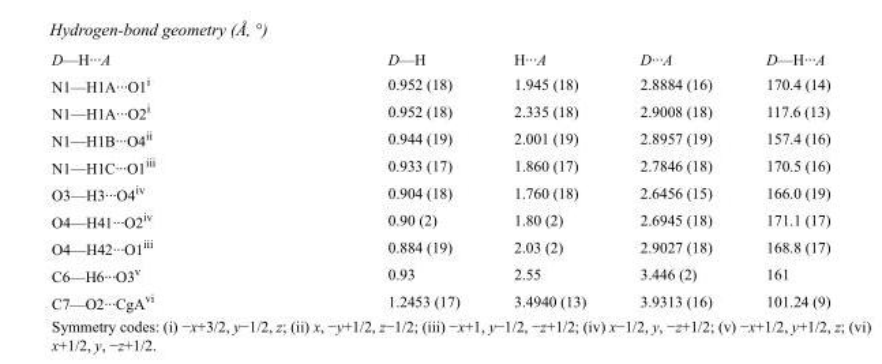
<table><tbody><tr><td>D—H···A</td><td>D—H</td><td>H···A</td><td>D···A</td><td>D—H···A</td></tr><tr><td>N1—H1A···O1<sup>i</sup></td><td>0.952 (18)</td><td>1.945 (18)</td><td>2.8884 (16)</td><td>170.4 (14)</td></tr><tr><td>N1—H1A···O2<sup>i</sup></td><td>0.952 (18)</td><td>2.335 (18)</td><td>2.9008 (18)</td><td>117.6 (13)</td></tr><tr><td>N1—H1B···O4<sup>ii</sup></td><td>0.944 (19)</td><td>2.001 (19)</td><td>2.8957 (19)</td><td>157.4 (16)</td></tr><tr><td>N1—H1C···O1<sup>iii</sup></td><td>0.933 (17)</td><td>1.860 (17)</td><td>2.7846 (18)</td><td>170.5 (16)</td></tr><tr><td>O3—H3···O4<sup>iv</sup></td><td>0.904 (18)</td><td>1.760 (18)</td><td>2.6456 (15)</td><td>166.0 (19)</td></tr><tr><td>O4—H41···O2<sup>iv</sup></td><td>0.90 (2)</td><td>1.80 (2)</td><td>2.6945 (18)</td><td>171.1 (17)</td></tr><tr><td>O4—H42···O1<sup>iii</sup></td><td>0.884 (19)</td><td>2.03 (2)</td><td>2.9027 (18)</td><td>168.8 (17)</td></tr><tr><td>C6—H6···O3<sup>v</sup></td><td>0.93</td><td>2.55</td><td>3.446 (2)</td><td>161</td></tr><tr><td>C7—O2···CgA<sup>vi</sup></td><td>1.2453 (17)</td><td>3.4940 (13)</td><td>3.9313 (16)</td><td>101.24 (9)</td></tr></tbody></table>